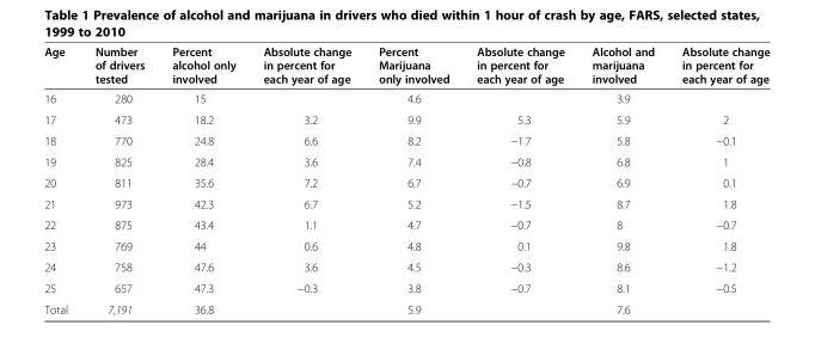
<table><thead><tr><td>Age</td><td>Number of drivers tested</td><td>Percent alcohol only involved</td><td>Absolute change in percent for each year of age</td><td>Percent Marijuana only involved</td><td>Absolute change in percent for each year of age</td><td>Alcohol and marijuana involved</td><td>Absolute change in percent for each year of age</td></tr></thead><tbody><tr><td>16</td><td>280</td><td>15</td><td></td><td>4.6</td><td></td><td>3.9</td><td></td></tr><tr><td>17</td><td>473</td><td>18.2</td><td>3.2</td><td>9.9</td><td>5.3</td><td>5.9</td><td>2</td></tr><tr><td>18</td><td>770</td><td>24.8</td><td>6.6</td><td>8.2</td><td>−1.7</td><td>5.8</td><td>−0.1</td></tr><tr><td>19</td><td>825</td><td>28.4</td><td>3.6</td><td>7.4</td><td>−0.8</td><td>6.8</td><td>1</td></tr><tr><td>20</td><td>811</td><td>35.6</td><td>7.2</td><td>6.7</td><td>−0.7</td><td>6.9</td><td>0.1</td></tr><tr><td>21</td><td>973</td><td>42.3</td><td>6.7</td><td>5.2</td><td>−1.5</td><td>8.7</td><td>1.8</td></tr><tr><td>22</td><td>875</td><td>43.4</td><td>1.1</td><td>4.7</td><td>−0.7</td><td>8</td><td>−0.7</td></tr><tr><td>23</td><td>769</td><td>44</td><td>0.6</td><td>4.8</td><td>0.1</td><td>9.8</td><td>1.8</td></tr><tr><td>24</td><td>758</td><td>47.6</td><td>3.6</td><td>4.5</td><td>−0.3</td><td>8.6</td><td>−1.2</td></tr><tr><td>25</td><td>657</td><td>47.3</td><td>−0.3</td><td>3.8</td><td>−0.7</td><td>8.1</td><td>−0.5</td></tr><tr><td>Total</td><td>7,191</td><td>36.8</td><td></td><td>5.9</td><td></td><td>7.6</td><td></td></tr></tbody></table>